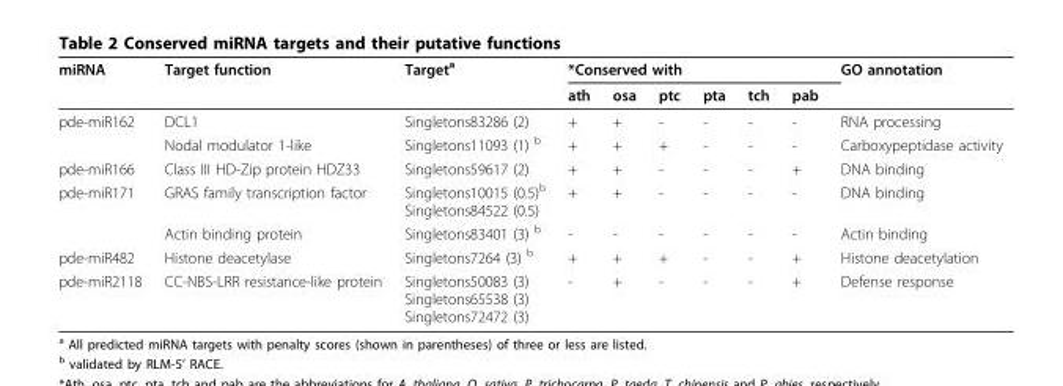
<table><thead><tr><td rowspan="2">miRNA</td><td rowspan="2">Target function</td><td rowspan="2">Target<sup>a</sup></td><td colspan="6">*Conserved with</td><td rowspan="2">GO annotation</td></tr><tr><td>ath</td><td>osa</td><td>ptc</td><td>pta</td><td>tch</td><td>pab</td></tr></thead><tbody><tr><td rowspan="2">pde-miR162</td><td>DCL1</td><td>Singletons83286 (2)</td><td>+</td><td>+</td><td>-</td><td>-</td><td>-</td><td>-</td><td>RNA processing</td></tr><tr><td>Nodal modulator 1-like</td><td>Singletons11093 (1) <sup>b</sup></td><td>+</td><td>+</td><td>+</td><td>-</td><td>-</td><td>-</td><td>Carboxypeptidase activity</td></tr><tr><td>pde-miR166</td><td>Class III HD-Zip protein HDZ33</td><td>Singletons59617 (2)</td><td>+</td><td>+</td><td>-</td><td>-</td><td>-</td><td>+</td><td>DNA binding</td></tr><tr><td rowspan="2">pde-miR171</td><td>GRAS family transcription factor</td><td>Singletons10015 (0.5)<sup>b</sup> Singletons84522 (0.5)</td><td>+</td><td>+</td><td>-</td><td>-</td><td>-</td><td>-</td><td>DNA binding</td></tr><tr><td>Actin binding protein</td><td>Singletons83401 (3) <sup>b</sup></td><td>-</td><td>-</td><td>-</td><td>-</td><td>-</td><td>-</td><td>Actin binding</td></tr><tr><td>pde-miR482</td><td>Histone deacetylase</td><td>Singletons7264 (3) <sup>b</sup></td><td>+</td><td>+</td><td>+</td><td>-</td><td>-</td><td>+</td><td>Histone deacetylation</td></tr><tr><td>pde-miR2118</td><td>CC-NBS-LRR resistance-like protein</td><td>Singletons50083 (3) Singletons65538 (3) Singletons72472 (3)</td><td>-</td><td>+</td><td>-</td><td>-</td><td>-</td><td>+</td><td>Defense response</td></tr></tbody></table>